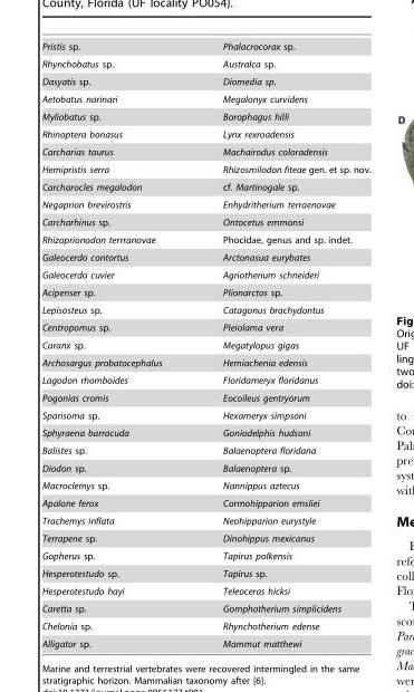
<table><tbody><tr><td>Pristis sp.</td><td>Phalacrocorax sp.</td></tr><tr><td>Rhynchobatus sp.</td><td>Australca sp.</td></tr><tr><td>Dasyatis sp.</td><td>Diomedia sp.</td></tr><tr><td>Aetobatus narinari</td><td>Megalonyx curvidens</td></tr><tr><td>Myliobatus sp.</td><td>Borophagus hilli</td></tr><tr><td>Rhinoptera bonasus</td><td>Lynx rexroadensis</td></tr><tr><td>Carcharias taurus</td><td>Machairodus coloradensis</td></tr><tr><td>Hemipristis serra</td><td>Rhizosmilodon fiteae gen. et sp. nov.</td></tr><tr><td>Carcharocles megalodon</td><td>cf. Martinogale sp.</td></tr><tr><td>Negaprion brevirostris</td><td>Enhydritherium terraenovae</td></tr><tr><td>Carcharhinus sp.</td><td>Ontocetus emmonsi</td></tr><tr><td>Rhizoprionodon terrranovae</td><td>Phocidae, genus and sp. indet.</td></tr><tr><td>Galeocerdo contortus</td><td>Arctonasua eurybates</td></tr><tr><td>Galeocerdo cuvier</td><td>Agriotherium schneideri</td></tr><tr><td>Acipenser sp.</td><td>Plionarctos sp.</td></tr><tr><td>Lepisosteus sp.</td><td>Catagonus brachydontus</td></tr><tr><td>Centropomus sp.</td><td>Pleiolama vera</td></tr><tr><td>Caranx sp.</td><td>Megatylopus gigas</td></tr><tr><td>Archosargus probatocephalus</td><td>Hemiachenia edensis</td></tr><tr><td>Lagodon rhomboides</td><td>Floridameryx floridanus</td></tr><tr><td>Pogonias cromis</td><td>Eocoileus gentryorum</td></tr><tr><td>Sparisoma sp.</td><td>Hexameryx simpsoni</td></tr><tr><td>Sphyraena barracuda</td><td>Goniodelphis hudsoni</td></tr><tr><td>Balistes sp.</td><td>Balaenoptera floridana</td></tr><tr><td>Diodon sp.</td><td>Balaenoptera sp.</td></tr><tr><td>Macroclemys sp.</td><td>Nannippus aztecus</td></tr><tr><td>Apalone ferox</td><td>Cormohipparion emsliei</td></tr><tr><td>Trachemys inflata</td><td>Neohipparion eurystyle</td></tr><tr><td>Terrapene sp.</td><td>Dinohippus mexicanus</td></tr><tr><td>Gopherus sp.</td><td>Tapirus polkensis</td></tr><tr><td>Hesperotestudo sp.</td><td>Tapirus sp.</td></tr><tr><td>Hesperotestudo hayi</td><td>Teleoceras hicksi</td></tr><tr><td>Caretta sp.</td><td>Gomphotherium simplicidens</td></tr><tr><td>Chelonia sp.</td><td>Rhynchotherium edense</td></tr><tr><td>Alligator sp.</td><td>Mammut matthewi</td></tr></tbody></table>